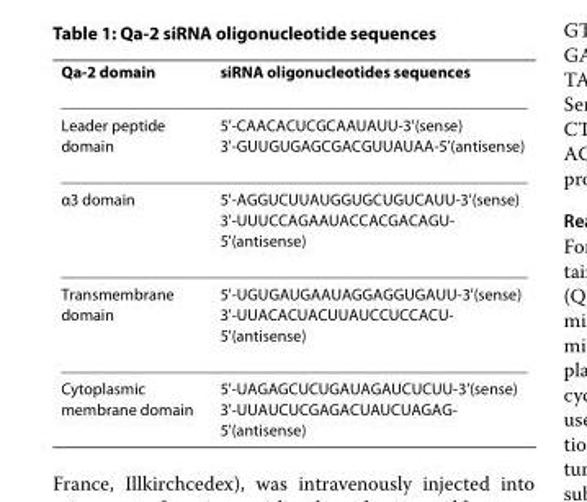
<table><thead><tr><td>Qa-2 domain</td><td>siRNA oligonucleotides sequences</td></tr></thead><tbody><tr><td>Leader peptide domain</td><td>5&#x27;-CAACACUCGCAAUAUU-3&#x27;(sense) 3&#x27;-GUUGUGAGCGACGUUAUAA-5&#x27;(antisense)</td></tr><tr><td>α3 domain</td><td>5&#x27;-AGGUCUUAUGGUGCUGUCAUU-3&#x27;(sense) 3&#x27;-UUUCCAGAAUACCACGACAGU- 5&#x27;(antisense)</td></tr><tr><td>Transmembrane domain</td><td>5&#x27;-UGUGAUGAAUAGGAGGUGAUU-3&#x27;(sense) 3&#x27;-UUACACUACUUAUCCUCCACU- 5&#x27;(antisense)</td></tr><tr><td>Cytoplasmic membrane domain</td><td>5&#x27;-UAGAGCUCUGAUAGAUCUCUU-3&#x27;(sense) 3&#x27;-UUAUCUCGAGACUAUCUAGAG- 5&#x27;(antisense)</td></tr></tbody></table>